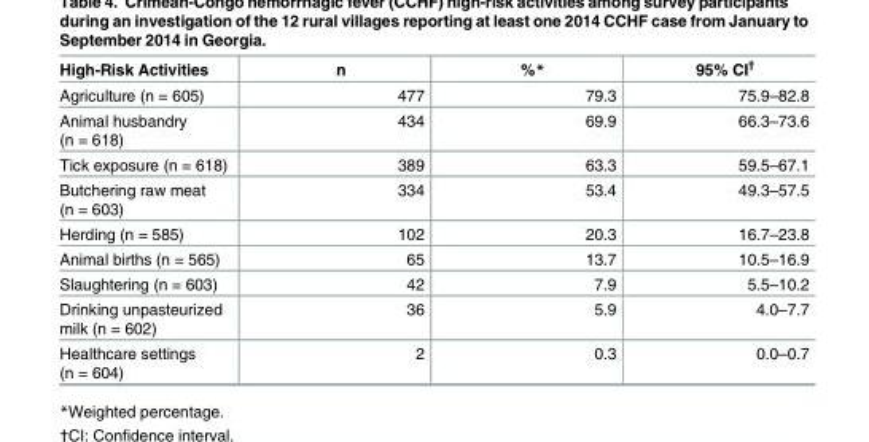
<table><thead><tr><td>High-Risk Activities</td><td>n</td><td>%*</td><td>95% CI<sup>†</sup></td></tr></thead><tbody><tr><td>Agriculture (n = 605)</td><td>477</td><td>79.3</td><td>75.9–82.8</td></tr><tr><td>Animal husbandry (n = 618)</td><td>434</td><td>69.9</td><td>66.3–73.6</td></tr><tr><td>Tick exposure (n = 618)</td><td>389</td><td>63.3</td><td>59.5–67.1</td></tr><tr><td>Butchering raw meat (n = 603)</td><td>334</td><td>53.4</td><td>49.3–57.5</td></tr><tr><td>Herding (n = 585)</td><td>102</td><td>20.3</td><td>16.7–23.8</td></tr><tr><td>Animal births (n = 565)</td><td>65</td><td>13.7</td><td>10.5–16.9</td></tr><tr><td>Slaughtering (n = 603)</td><td>42</td><td>7.9</td><td>5.5–10.2</td></tr><tr><td>Drinking unpasteurized milk (n = 602)</td><td>36</td><td>5.9</td><td>4.0–7.7</td></tr><tr><td>Healthcare settings (n = 604)</td><td>2</td><td>0.3</td><td>0.0–0.7</td></tr></tbody></table>